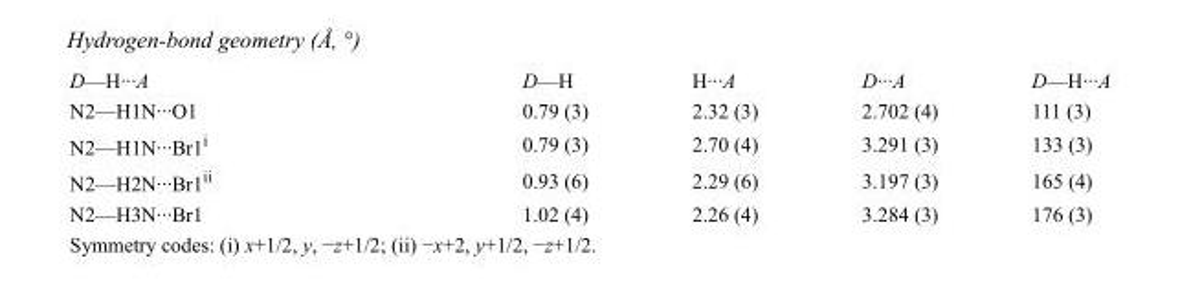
<table><tbody><tr><td>D—H···A</td><td>D—H</td><td>H···A</td><td>D···A</td><td>D—H···A</td></tr><tr><td>N2—H1N···O1</td><td>0.79 (3)</td><td>2.32 (3)</td><td>2.702 (4)</td><td>111 (3)</td></tr><tr><td>N2—H1N···Br1<sup>i</sup></td><td>0.79 (3)</td><td>2.70 (4)</td><td>3.291 (3)</td><td>133 (3)</td></tr><tr><td>N2—H2N···Br1<sup>ii</sup></td><td>0.93 (6)</td><td>2.29 (6)</td><td>3.197 (3)</td><td>165 (4)</td></tr><tr><td>N2—H3N···Br1</td><td>1.02 (4)</td><td>2.26 (4)</td><td>3.284 (3)</td><td>176 (3)</td></tr></tbody></table>